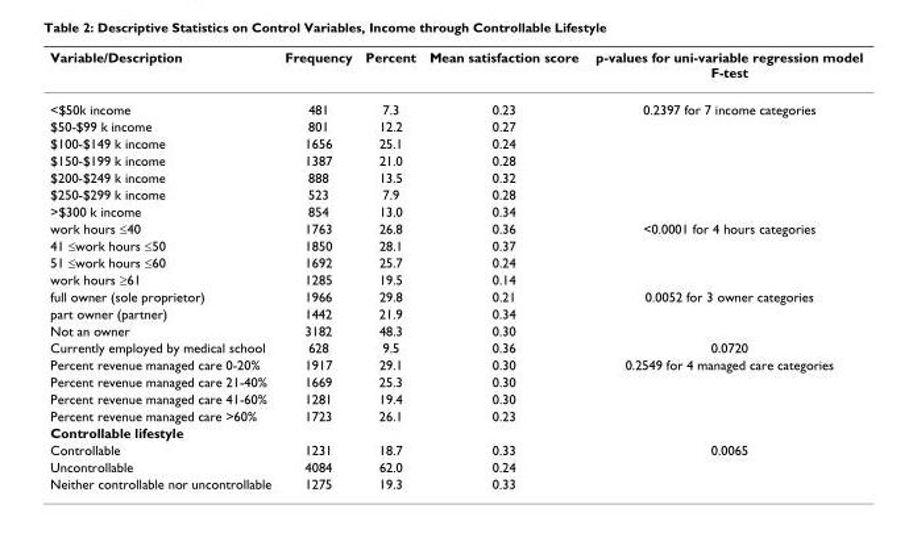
<table><thead><tr><td>Variable/Description</td><td>Frequency</td><td>Percent</td><td>Mean satisfaction score</td><td>p-values for uni-variable regression model F-test</td></tr></thead><tbody><tr><td>&lt;$50k income</td><td>481</td><td>7.3</td><td>0.23</td><td>0.2397 for 7 income categories</td></tr><tr><td>$50-$99 k income</td><td>801</td><td>12.2</td><td>0.27</td><td></td></tr><tr><td>$100-$149 k income</td><td>1656</td><td>25.1</td><td>0.24</td><td></td></tr><tr><td>$150-$199 k income</td><td>1387</td><td>21.0</td><td>0.28</td><td></td></tr><tr><td>$200-$249 k income</td><td>888</td><td>13.5</td><td>0.32</td><td></td></tr><tr><td>$250-$299 k income</td><td>523</td><td>7.9</td><td>0.28</td><td></td></tr><tr><td>&gt;$300 k income</td><td>854</td><td>13.0</td><td>0.34</td><td></td></tr><tr><td>work hours ≤40</td><td>1763</td><td>26.8</td><td>0.36</td><td>&lt;0.0001 for 4 hours categories</td></tr><tr><td>41 ≤work hours ≤50</td><td>1850</td><td>28.1</td><td>0.37</td><td></td></tr><tr><td>51 ≤work hours ≤60</td><td>1692</td><td>25.7</td><td>0.24</td><td></td></tr><tr><td>work hours ≥61</td><td>1285</td><td>19.5</td><td>0.14</td><td></td></tr><tr><td>full owner (sole proprietor)</td><td>1966</td><td>29.8</td><td>0.21</td><td>0.0052 for 3 owner categories</td></tr><tr><td>part owner (partner)</td><td>1442</td><td>21.9</td><td>0.34</td><td></td></tr><tr><td>Not an owner</td><td>3182</td><td>48.3</td><td>0.30</td><td></td></tr><tr><td>Currently employed by medical school</td><td>628</td><td>9.5</td><td>0.36</td><td>0.0720</td></tr><tr><td>Percent revenue managed care 0-20%</td><td>1917</td><td>29.1</td><td>0.30</td><td>0.2549 for 4 managed care categories</td></tr><tr><td>Percent revenue managed care 21-40%</td><td>1669</td><td>25.3</td><td>0.30</td><td></td></tr><tr><td>Percent revenue managed care 41-60%</td><td>1281</td><td>19.4</td><td>0.30</td><td></td></tr><tr><td>Percent revenue managed care &gt;60%</td><td>1723</td><td>26.1</td><td>0.23</td><td></td></tr><tr><td colspan="5">Controllable lifestyle</td></tr><tr><td>Controllable</td><td>1231</td><td>18.7</td><td>0.33</td><td>0.0065</td></tr><tr><td>Uncontrollable</td><td>4084</td><td>62.0</td><td>0.24</td><td></td></tr><tr><td>Neither controllable nor uncontrollable</td><td>1275</td><td>19.3</td><td>0.33</td><td></td></tr></tbody></table>